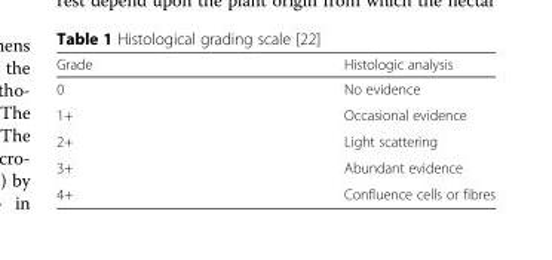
<table><thead><tr><td>Grade</td><td>Histologic analysis</td></tr></thead><tbody><tr><td>0</td><td>No evidence</td></tr><tr><td>1+</td><td>Occasional evidence</td></tr><tr><td>2+</td><td>Light scattering</td></tr><tr><td>3+</td><td>Abundant evidence</td></tr><tr><td>4+</td><td>Confluence cells or fibres</td></tr></tbody></table>